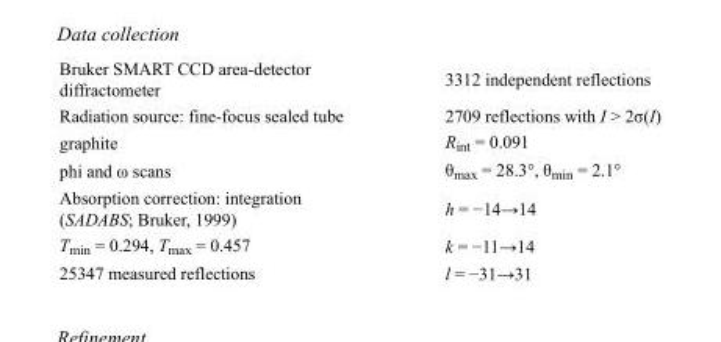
<table><tbody><tr><td>Bruker SMART CCD area-detector diffractometer</td><td>3312 independent reflections</td></tr><tr><td>Radiation source: fine-focus sealed tube</td><td>2709 reflections with I &gt; 2σ(I)</td></tr><tr><td>graphite</td><td>R<sub>int</sub> = 0.091</td></tr><tr><td>phi and ω scans</td><td>θ<sub>max</sub> = 28.3°, θ<sub>min</sub> = 2.1°</td></tr><tr><td>Absorption correction: integration (SADABS; Bruker, 1999)</td><td>h = −14→14</td></tr><tr><td>T<sub>min</sub> = 0.294, T<sub>max</sub> = 0.457</td><td>k = −11→14</td></tr><tr><td>25347 measured reflections</td><td>l = −31→31</td></tr></tbody></table>